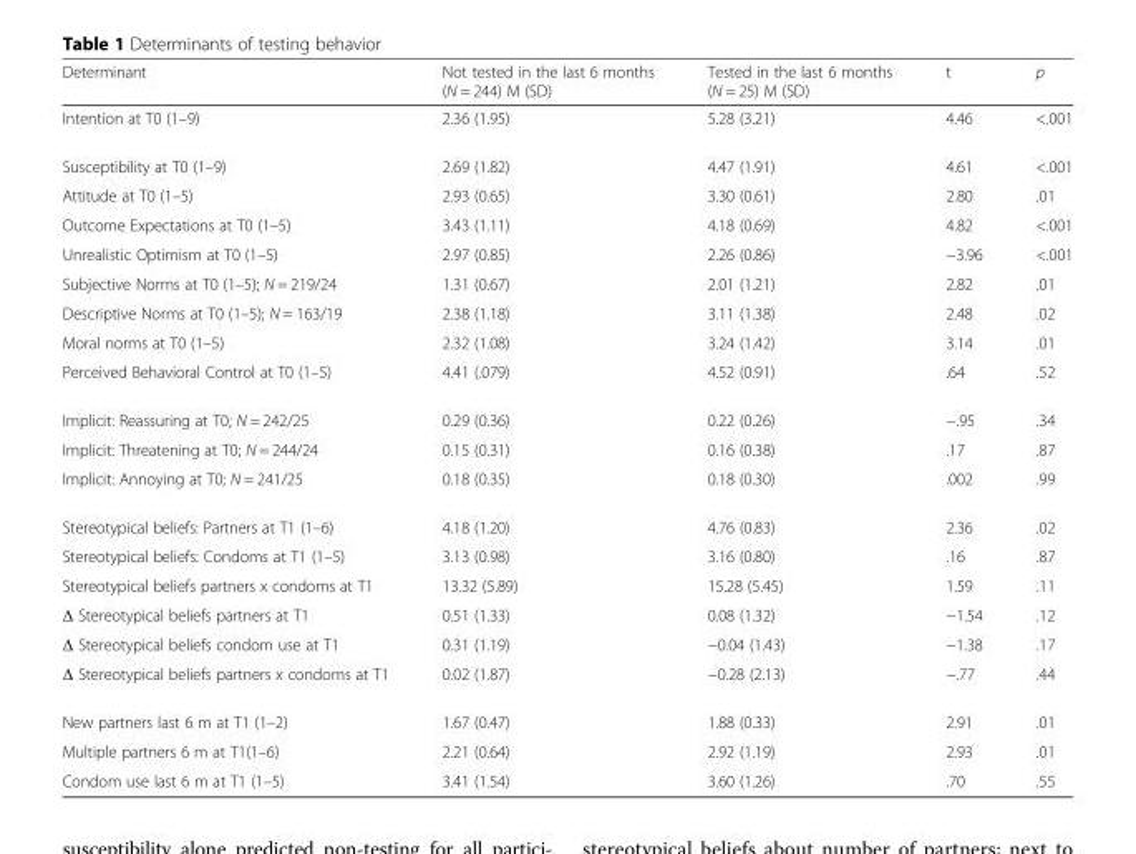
<table><thead><tr><td>Determinant</td><td>Not tested in the last 6 months (N = 244) M (SD)</td><td>Tested in the last 6 months (N = 25) M (SD)</td><td>t</td><td>p</td></tr></thead><tbody><tr><td>Intention at T0 (1–9)</td><td>2.36 (1.95)</td><td>5.28 (3.21)</td><td>4.46</td><td>&lt;.001</td></tr><tr><td>Susceptibility at T0 (1–9)</td><td>2.69 (1.82)</td><td>4.47 (1.91)</td><td>4.61</td><td>&lt;.001</td></tr><tr><td>Attitude at T0 (1–5)</td><td>2.93 (0.65)</td><td>3.30 (0.61)</td><td>2.80</td><td>.01</td></tr><tr><td>Outcome Expectations at T0 (1–5)</td><td>3.43 (1.11)</td><td>4.18 (0.69)</td><td>4.82</td><td>&lt;.001</td></tr><tr><td>Unrealistic Optimism at T0 (1–5)</td><td>2.97 (0.85)</td><td>2.26 (0.86)</td><td>−3.96</td><td>&lt;.001</td></tr><tr><td>Subjective Norms at T0 (1–5); N = 219/24</td><td>1.31 (0.67)</td><td>2.01 (1.21)</td><td>2.82</td><td>.01</td></tr><tr><td>Descriptive Norms at T0 (1–5); N = 163/19</td><td>2.38 (1.18)</td><td>3.11 (1.38)</td><td>2.48</td><td>.02</td></tr><tr><td>Moral norms at T0 (1–5)</td><td>2.32 (1.08)</td><td>3.24 (1.42)</td><td>3.14</td><td>.01</td></tr><tr><td>Perceived Behavioral Control at T0 (1–5)</td><td>4.41 (.079)</td><td>4.52 (0.91)</td><td>.64</td><td>.52</td></tr><tr><td>Implicit: Reassuring at T0; N = 242/25</td><td>0.29 (0.36)</td><td>0.22 (0.26)</td><td>−.95</td><td>.34</td></tr><tr><td>Implicit: Threatening at T0; N = 244/24</td><td>0.15 (0.31)</td><td>0.16 (0.38)</td><td>.17</td><td>.87</td></tr><tr><td>Implicit: Annoying at T0; N = 241/25</td><td>0.18 (0.35)</td><td>0.18 (0.30)</td><td>.002</td><td>.99</td></tr><tr><td>Stereotypical beliefs: Partners at T1 (1–6)</td><td>4.18 (1.20)</td><td>4.76 (0.83)</td><td>2.36</td><td>.02</td></tr><tr><td>Stereotypical beliefs: Condoms at T1 (1–5)</td><td>3.13 (0.98)</td><td>3.16 (0.80)</td><td>.16</td><td>.87</td></tr><tr><td>Stereotypical beliefs partners x condoms at T1</td><td>13.32 (5.89)</td><td>15.28 (5.45)</td><td>1.59</td><td>.11</td></tr><tr><td>Δ Stereotypical beliefs partners at T1</td><td>0.51 (1.33)</td><td>0.08 (1.32)</td><td>−1.54</td><td>.12</td></tr><tr><td>Δ Stereotypical beliefs condom use at T1</td><td>0.31 (1.19)</td><td>−0.04 (1.43)</td><td>−1.38</td><td>.17</td></tr><tr><td>Δ Stereotypical beliefs partners x condoms at T1</td><td>0.02 (1.87)</td><td>−0.28 (2.13)</td><td>−.77</td><td>.44</td></tr><tr><td>New partners last 6 m at T1 (1–2)</td><td>1.67 (0.47)</td><td>1.88 (0.33)</td><td>2.91</td><td>.01</td></tr><tr><td>Multiple partners 6 m at T1(1–6)</td><td>2.21 (0.64)</td><td>2.92 (1.19)</td><td>2.93</td><td>.01</td></tr><tr><td>Condom use last 6 m at T1 (1–5)</td><td>3.41 (1.54)</td><td>3.60 (1.26)</td><td>.70</td><td>.55</td></tr></tbody></table>